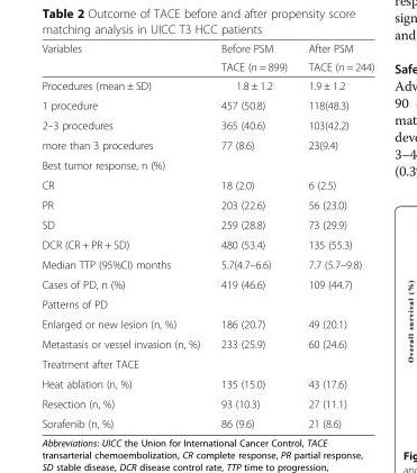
<table><thead><tr><td rowspan="2">Variables</td><td rowspan="2">Before PSM TACE (n = 899)</td><td rowspan="2">After PSM TACE (n = 244)</td></tr><tr></tr></thead><tbody><tr><td>Procedures (mean ± SD)</td><td>1.8 ± 1.2</td><td>1.9 ± 1.2</td></tr><tr><td>1 procedure</td><td>457 (50.8)</td><td>118(48.3)</td></tr><tr><td>2–3 procedures</td><td>365 (40.6)</td><td>103(42.2)</td></tr><tr><td>more than 3 procedures</td><td>77 (8.6)</td><td>23(9.4)</td></tr><tr><td colspan="3">Best tumor response, n (%)</td></tr><tr><td>CR</td><td>18 (2.0)</td><td>6 (2.5)</td></tr><tr><td>PR</td><td>203 (22.6)</td><td>56 (23.0)</td></tr><tr><td>SD</td><td>259 (28.8)</td><td>73 (29.9)</td></tr><tr><td>DCR (CR + PR + SD)</td><td>480 (53.4)</td><td>135 (55.3)</td></tr><tr><td>Median TTP (95%CI) months</td><td>5.7(4.7–6.6)</td><td>7.7 (5.7–9.8)</td></tr><tr><td>Cases of PD, n (%)</td><td>419 (46.6)</td><td>109 (44.7)</td></tr><tr><td colspan="3">Patterns of PD</td></tr><tr><td>Enlarged or new lesion (n, %)</td><td>186 (20.7)</td><td>49 (20.1)</td></tr><tr><td>Metastasis or vessel invasion (n, %)</td><td>233 (25.9)</td><td>60 (24.6)</td></tr><tr><td colspan="3">Treatment after TACE</td></tr><tr><td>Heat ablation (n, %)</td><td>135 (15.0)</td><td>43 (17.6)</td></tr><tr><td>Resection (n, %)</td><td>93 (10.3)</td><td>27 (11.1)</td></tr><tr><td>Sorafenib (n, %)</td><td>86 (9.6)</td><td>21 (8.6)</td></tr></tbody></table>